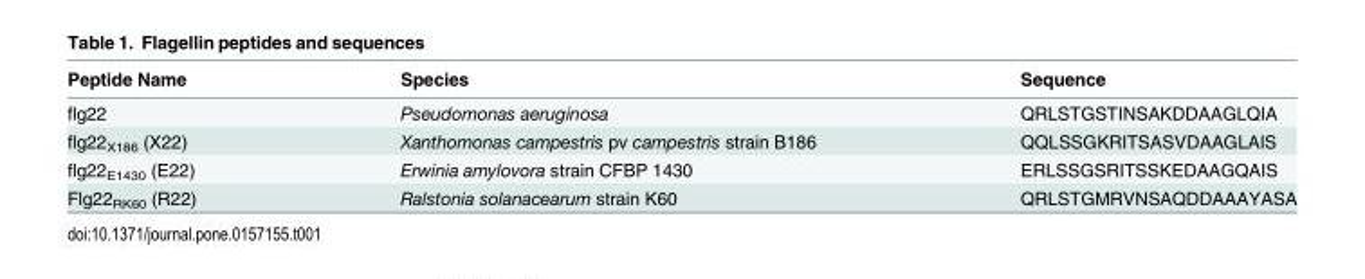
<table><thead><tr><td>Peptide Name</td><td>Species</td><td>Sequence</td></tr></thead><tbody><tr><td>flg22</td><td>Pseudomonas aeruginosa</td><td>QRLSTGSTINSAKDDAAGLQIA</td></tr><tr><td>flg22<sub>X186</sub> (X22)</td><td>Xanthomonas campestris pv campestris strain B186</td><td>QQLSSGKRITSASVDAAGLAIS</td></tr><tr><td>flg22<sub>E1430</sub> (E22)</td><td>Erwinia amylovora strain CFBP 1430</td><td>ERLSSGSRITSSKEDAAGQAIS</td></tr><tr><td>Flg22<sub>RK60</sub> (R22)</td><td>Ralstonia solanacearum strain K60</td><td>QRLSTGMRVNSAQDDAAAYASA</td></tr></tbody></table>